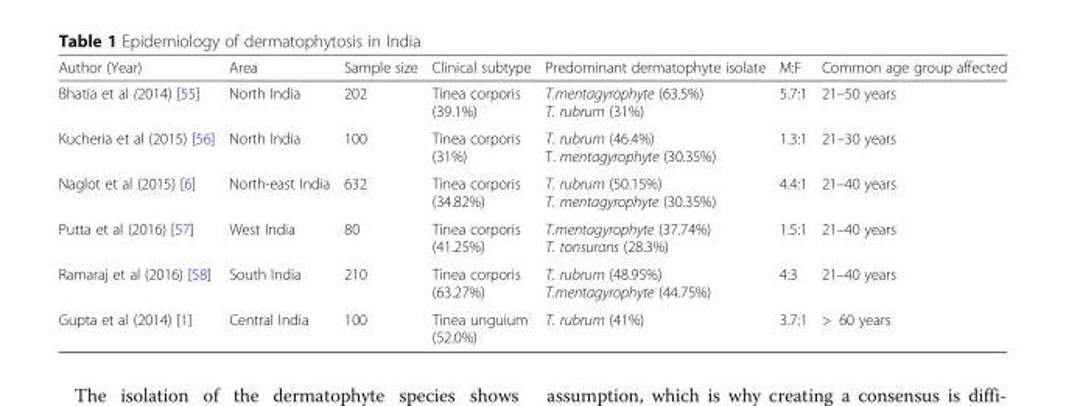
<table><thead><tr><td>Author (Year)</td><td>Area</td><td>Sample size</td><td>Clinical subtype</td><td>Predominant dermatophyte isolate</td><td>M:F</td><td>Common age group affected</td></tr></thead><tbody><tr><td>Bhatia et al (2014) [55]</td><td>North India</td><td>202</td><td>Tinea corporis (39.1%)</td><td>T.mentagyrophyte (63.5%) T. rubrum (31%)</td><td>5.7:1</td><td>21–50 years</td></tr><tr><td>Kucheria et al (2015) [56]</td><td>North India</td><td>100</td><td>Tinea corporis (31%)</td><td>T. rubrum (46.4%) T. mentagyrophyte (30.35%)</td><td>1.3:1</td><td>21–30 years</td></tr><tr><td>Naglot et al (2015) [6]</td><td>North-east India</td><td>632</td><td>Tinea corporis (34.82%)</td><td>T. rubrum (50.15%) T. mentagyrophyte (30.35%)</td><td>4.4:1</td><td>21–40 years</td></tr><tr><td>Putta et al (2016) [57]</td><td>West India</td><td>80</td><td>Tinea corporis (41.25%)</td><td>T.mentagyrophyte (37.74%) T. tonsurans (28.3%)</td><td>1.5:1</td><td>21–40 years</td></tr><tr><td>Ramaraj et al (2016) [58]</td><td>South India</td><td>210</td><td>Tinea corporis (63.27%)</td><td>T. rubrum (48.95%) T.mentagyrophyte (44.75%)</td><td>4:3</td><td>21–40 years</td></tr><tr><td>Gupta et al (2014) [1]</td><td>Central India</td><td>100</td><td>Tinea unguium (52.0%)</td><td>T. rubrum (41%)</td><td>3.7:1</td><td>&gt; 60 years</td></tr></tbody></table>